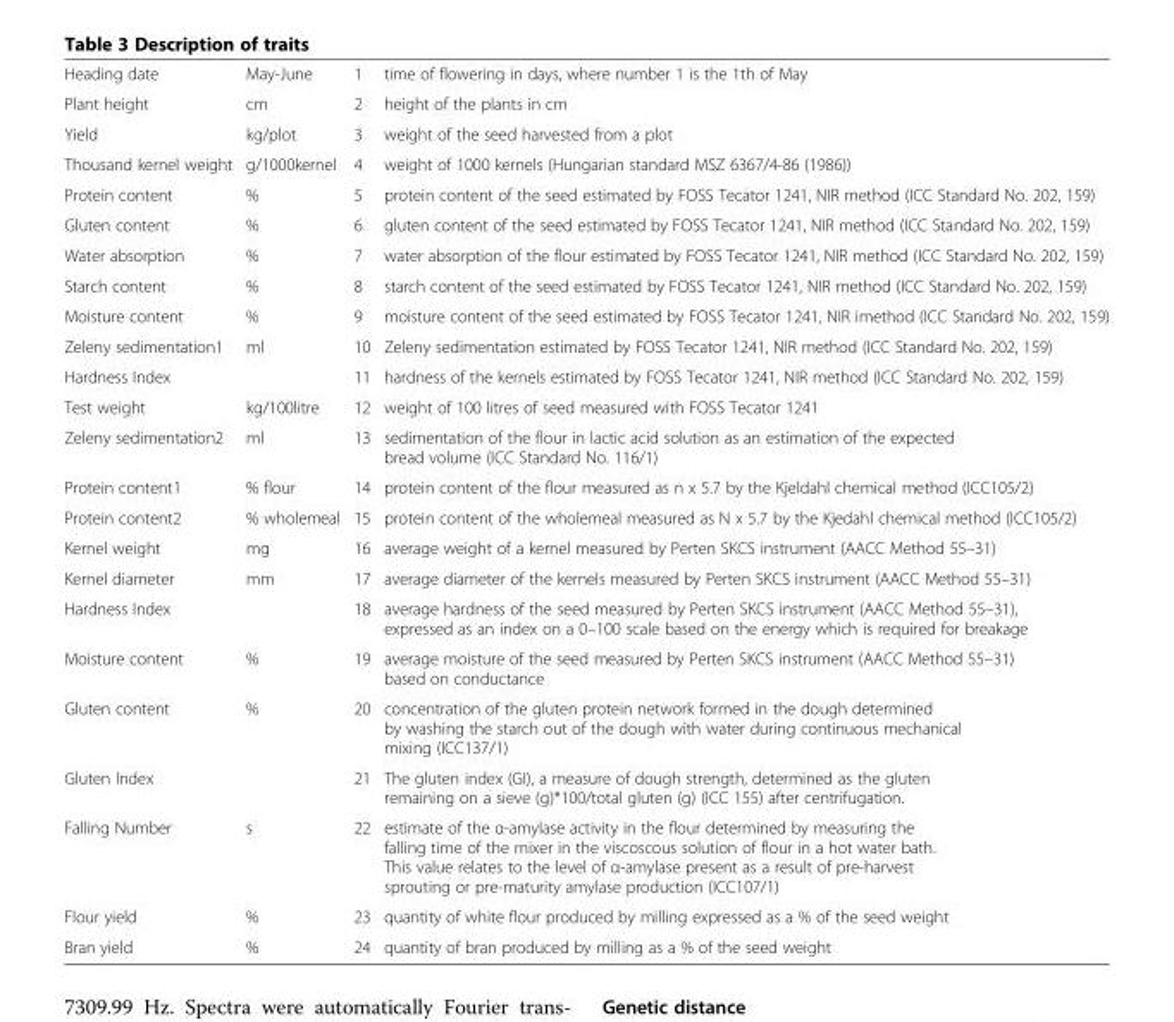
<table><tbody><tr><td>Heading date</td><td>May-June</td><td>1</td><td>time of flowering in days, where number 1 is the 1th of May</td></tr><tr><td>Plant height</td><td>cm</td><td>2</td><td>height of the plants in cm</td></tr><tr><td>Yield</td><td>kg/plot</td><td>3</td><td>weight of the seed harvested from a plot</td></tr><tr><td>Thousand kernel weight</td><td>g/1000kernel</td><td>4</td><td>weight of 1000 kernels (Hungarian standard MSZ 6367/4-86 (1986))</td></tr><tr><td>Protein content</td><td>%</td><td>5</td><td>protein content of the seed estimated by FOSS Tecator 1241, NIR method (ICC Standard No. 202, 159)</td></tr><tr><td>Gluten content</td><td>%</td><td>6</td><td>gluten content of the seed estimated by FOSS Tecator 1241, NIR method (ICC Standard No. 202, 159)</td></tr><tr><td>Water absorption</td><td>%</td><td>7</td><td>water absorption of the flour estimated by FOSS Tecator 1241, NIR method (ICC Standard No. 202, 159)</td></tr><tr><td>Starch content</td><td>%</td><td>8</td><td>starch content of the seed estimated by FOSS Tecator 1241, NIR method (ICC Standard No. 202, 159)</td></tr><tr><td>Moisture content</td><td>%</td><td>9</td><td>moisture content of the seed estimated by FOSS Tecator 1241, NIR imethod (ICC Standard No. 202, 159)</td></tr><tr><td>Zeleny sedimentation1</td><td>ml</td><td>10</td><td>Zeleny sedimentation estimated by FOSS Tecator 1241, NIR method (ICC Standard No. 202, 159)</td></tr><tr><td>Hardness Index</td><td></td><td>11</td><td>hardness of the kernels estimated by FOSS Tecator 1241, NIR method (ICC Standard No. 202, 159)</td></tr><tr><td>Test weight</td><td>kg/100litre</td><td>12</td><td>weight of 100 litres of seed measured with FOSS Tecator 1241</td></tr><tr><td>Zeleny sedimentation2</td><td>ml</td><td>13</td><td>sedimentation of the flour in lactic acid solution as an estimation of the expected bread volume (ICC Standard No. 116/1)</td></tr><tr><td>Protein content1</td><td>% flour</td><td>14</td><td>protein content of the flour measured as n x 5.7 by the Kjeldahl chemical method (ICC105/2)</td></tr><tr><td>Protein content2</td><td>% wholemeal</td><td>15</td><td>protein content of the wholemeal measured as N x 5.7 by the Kjedahl chemical method (ICC105/2)</td></tr><tr><td>Kernel weight</td><td>mg</td><td>16</td><td>average weight of a kernel measured by Perten SKCS instrument (AACC Method 55–31)</td></tr><tr><td>Kernel diameter</td><td>mm</td><td>17</td><td>average diameter of the kernels measured by Perten SKCS instrument (AACC Method 55–31)</td></tr><tr><td>Hardness Index</td><td></td><td>18</td><td>average hardness of the seed measured by Perten SKCS instrument (AACC Method 55–31), expressed as an index on a 0–100 scale based on the energy which is required for breakage</td></tr><tr><td>Moisture content</td><td>%</td><td>19</td><td>average moisture of the seed measured by Perten SKCS instrument (AACC Method 55–31) based on conductance</td></tr><tr><td>Gluten content</td><td>%</td><td>20</td><td>concentration of the gluten protein network formed in the dough determined by washing the starch out of the dough with water during continuous mechanical mixing (ICC137/1)</td></tr><tr><td>Gluten Index</td><td></td><td>21</td><td>The gluten index (GI), a measure of dough strength, determined as the gluten remaining on a sieve (g)*100/total gluten (g) (ICC 155) after centrifugation.</td></tr><tr><td>Falling Number</td><td>s</td><td>22</td><td>estimate of the α-amylase activity in the flour determined by measuring the falling time of the mixer in the viscoscous solution of flour in a hot water bath. This value relates to the level of α-amylase present as a result of pre-harvest sprouting or pre-maturity amylase production (ICC107/1)</td></tr><tr><td>Flour yield</td><td>%</td><td>23</td><td>quantity of white flour produced by milling expressed as a % of the seed weight</td></tr><tr><td>Bran yield</td><td>%</td><td>24</td><td>quantity of bran produced by milling as a % of the seed weight</td></tr></tbody></table>